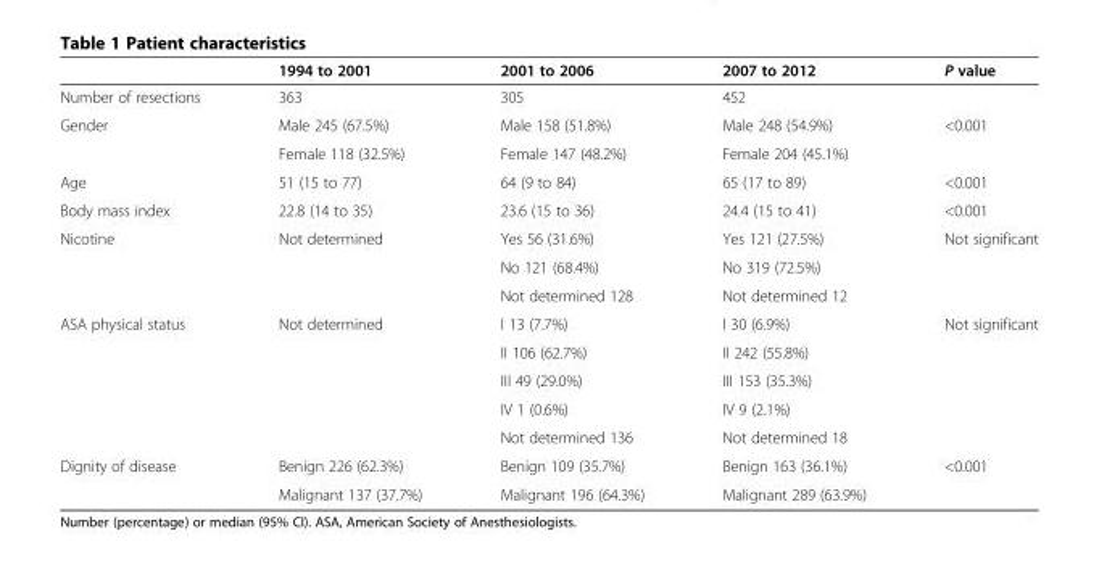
<table><thead><tr><td></td><td>1994 to 2001</td><td>2001 to 2006</td><td>2007 to 2012</td><td>P value</td></tr></thead><tbody><tr><td>Number of resections</td><td>363</td><td>305</td><td>452</td><td></td></tr><tr><td rowspan="2">Gender</td><td>Male 245 (67.5%)</td><td>Male 158 (51.8%)</td><td>Male 248 (54.9%)</td><td rowspan="2">&lt;0.001</td></tr><tr><td>Female 118 (32.5%)</td><td>Female 147 (48.2%)</td><td>Female 204 (45.1%)</td></tr><tr><td>Age</td><td>51 (15 to 77)</td><td>64 (9 to 84)</td><td>65 (17 to 89)</td><td>&lt;0.001</td></tr><tr><td>Body mass index</td><td>22.8 (14 to 35)</td><td>23.6 (15 to 36)</td><td>24.4 (15 to 41)</td><td>&lt;0.001</td></tr><tr><td rowspan="3">Nicotine</td><td rowspan="3">Not determined</td><td>Yes 56 (31.6%)</td><td>Yes 121 (27.5%)</td><td rowspan="3">Not significant</td></tr><tr><td>No 121 (68.4%)</td><td>No 319 (72.5%)</td></tr><tr><td>Not determined 128</td><td>Not determined 12</td></tr><tr><td rowspan="5">ASA physical status</td><td rowspan="5">Not determined</td><td>I 13 (7.7%)</td><td>I 30 (6.9%)</td><td>Not significant</td></tr><tr><td>II 106 (62.7%)</td><td>II 242 (55.8%)</td><td rowspan="4"></td></tr><tr><td>III 49 (29.0%)</td><td>III 153 (35.3%)</td></tr><tr><td>IV 1 (0.6%)</td><td>IV 9 (2.1%)</td></tr><tr><td>Not determined 136</td><td>Not determined 18</td></tr><tr><td rowspan="2">Dignity of disease</td><td>Benign 226 (62.3%)</td><td>Benign 109 (35.7%)</td><td>Benign 163 (36.1%)</td><td rowspan="2">&lt;0.001</td></tr><tr><td>Malignant 137 (37.7%)</td><td>Malignant 196 (64.3%)</td><td>Malignant 289 (63.9%)</td></tr></tbody></table>